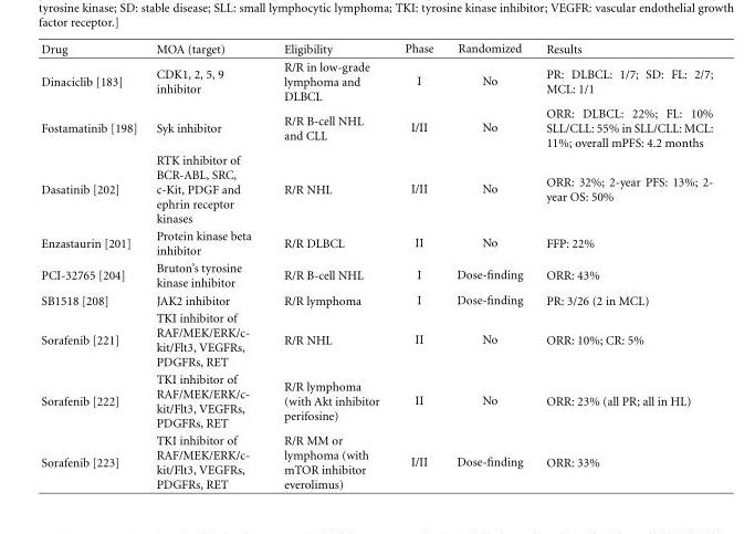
<table><thead><tr><td>Drug</td><td>MOA (target)</td><td>Eligibility</td><td>Phase</td><td>Randomized</td><td>Results</td></tr></thead><tbody><tr><td>Dinaciclib [183]</td><td>CDK1, 2, 5, 9 inhibitor</td><td>R/R in low-grade lymphoma and DLBCL</td><td>I</td><td>No</td><td>PR: DLBCL: 1/7; SD: FL: 2/7; MCL: 1/1</td></tr><tr><td>Fostamatinib [198]</td><td>Syk inhibitor</td><td>R/R B-cell NHL and CLL</td><td>I/II</td><td>No</td><td>ORR: DLBCL: 22%; FL: 10% SLL/CLL: 55% in SLL/CLL: MCL: 11%; overall mPFS: 4.2 months</td></tr><tr><td>Dasatinib [202]</td><td>RTK inhibitor of BCR-ABL, SRC, c-Kit, PDGF and ephrin receptor kinases</td><td>R/R NHL</td><td>I/II</td><td>No</td><td>ORR: 32%; 2-year PFS: 13%; 2- year OS: 50%</td></tr><tr><td>Enzastaurin [201]</td><td>Protein kinase beta inhibitor</td><td>R/R DLBCL</td><td>II</td><td>No</td><td>FFP: 22%</td></tr><tr><td>PCI-32765 [204]</td><td>Bruton’s tyrosine kinase inhibitor</td><td>R/R B-cell NHL</td><td>I</td><td>Dose-finding</td><td>ORR: 43%</td></tr><tr><td>SB1518 [208]</td><td>JAK2 inhibitor</td><td>R/R lymphoma</td><td>I</td><td>Dose-finding</td><td>PR: 3/26 (2 in MCL)</td></tr><tr><td>Sorafenib [221]</td><td>TKI inhibitor of RAF/MEK/ERK/c- kit/Flt3, VEGFRs, PDGFRs, RET</td><td>R/R NHL</td><td>II</td><td>No</td><td>ORR: 10%; CR: 5%</td></tr><tr><td>Sorafenib [222]</td><td>TKI inhibitor of RAF/MEK/ERK/c- kit/Flt3, VEGFRs, PDGFRs, RET</td><td>R/R lymphoma (with Akt inhibitor perifosine)</td><td>II</td><td>No</td><td>ORR: 23% (all PR; all in HL)</td></tr><tr><td>Sorafenib [223]</td><td>TKI inhibitor of RAF/MEK/ERK/c- kit/Flt3, VEGFRs, PDGFRs, RET</td><td>R/R MM or lymphoma (with mTOR inhibitor everolimus)</td><td>I/II</td><td>Dose-finding</td><td>ORR: 33%</td></tr></tbody></table>